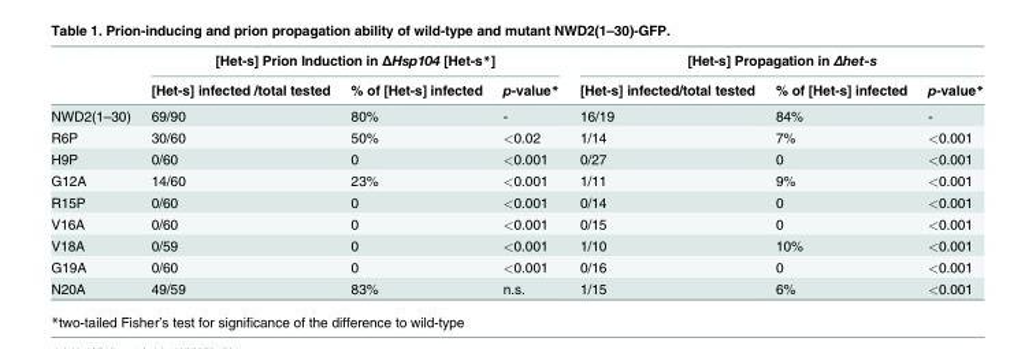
<table><thead><tr><td rowspan="2"></td><td colspan="3">[Het-s] Prion Induction in ΔHsp104 [Het-s*]</td><td colspan="3">[Het-s] Propagation in Δhet-s</td></tr><tr><td>[Het-s] infected /total tested</td><td>% of [Het-s] infected</td><td>p-value*</td><td>[Het-s] infected/total tested</td><td>% of [Het-s] infected</td><td>p-value*</td></tr></thead><tbody><tr><td>NWD2(1–30)</td><td>69/90</td><td>80%</td><td>-</td><td>16/19</td><td>84%</td><td>-</td></tr><tr><td>R6P</td><td>30/60</td><td>50%</td><td>&lt;0.02</td><td>1/14</td><td>7%</td><td>&lt;0.001</td></tr><tr><td>H9P</td><td>0/60</td><td>0</td><td>&lt;0.001</td><td>0/27</td><td>0</td><td>&lt;0.001</td></tr><tr><td>G12A</td><td>14/60</td><td>23%</td><td>&lt;0.001</td><td>1/11</td><td>9%</td><td>&lt;0.001</td></tr><tr><td>R15P</td><td>0/60</td><td>0</td><td>&lt;0.001</td><td>0/14</td><td>0</td><td>&lt;0.001</td></tr><tr><td>V16A</td><td>0/60</td><td>0</td><td>&lt;0.001</td><td>0/15</td><td>0</td><td>&lt;0.001</td></tr><tr><td>V18A</td><td>0/59</td><td>0</td><td>&lt;0.001</td><td>1/10</td><td>10%</td><td>&lt;0.001</td></tr><tr><td>G19A</td><td>0/60</td><td>0</td><td>&lt;0.001</td><td>0/16</td><td>0</td><td>&lt;0.001</td></tr><tr><td>N20A</td><td>49/59</td><td>83%</td><td>n.s.</td><td>1/15</td><td>6%</td><td>&lt;0.001</td></tr></tbody></table>